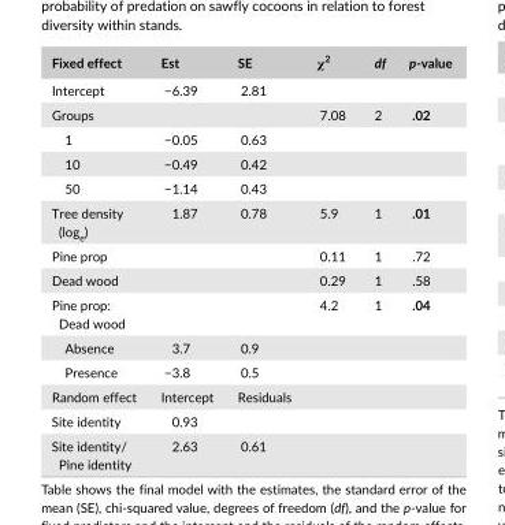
<table><thead><tr><td>Fixed effect</td><td>Est</td><td>SE</td><td>χ<sup>2</sup></td><td>df</td><td>p- value</td></tr></thead><tbody><tr><td>Intercept</td><td>−6.39</td><td>2.81</td><td></td><td></td><td></td></tr><tr><td>Groups</td><td></td><td></td><td>7.08</td><td>2</td><td>.02</td></tr><tr><td>1</td><td>−0.05</td><td>0.63</td><td></td><td></td><td></td></tr><tr><td>10</td><td>−0.49</td><td>0.42</td><td></td><td></td><td></td></tr><tr><td>50</td><td>−1.14</td><td>0.43</td><td></td><td></td><td></td></tr><tr><td>Tree density (log<sub>e</sub>)</td><td>1.87</td><td>0.78</td><td>5.9</td><td>1</td><td>.01</td></tr><tr><td>Pine prop</td><td></td><td></td><td>0.11</td><td>1</td><td>.72</td></tr><tr><td>Dead wood</td><td></td><td></td><td>0.29</td><td>1</td><td>.58</td></tr><tr><td>Pine prop: Dead wood</td><td></td><td></td><td>4.2</td><td>1</td><td>.04</td></tr><tr><td>Absence</td><td>3.7</td><td>0.9</td><td></td><td></td><td></td></tr><tr><td>Presence</td><td>−3.8</td><td>0.5</td><td></td><td></td><td></td></tr><tr><td>Random effect</td><td>Intercept</td><td>Residuals</td><td></td><td></td><td></td></tr><tr><td>Site identity</td><td>0.93</td><td></td><td></td><td></td><td></td></tr><tr><td>Site identity/ Pine identity</td><td>2.63</td><td>0.61</td><td></td><td></td><td></td></tr></tbody></table>